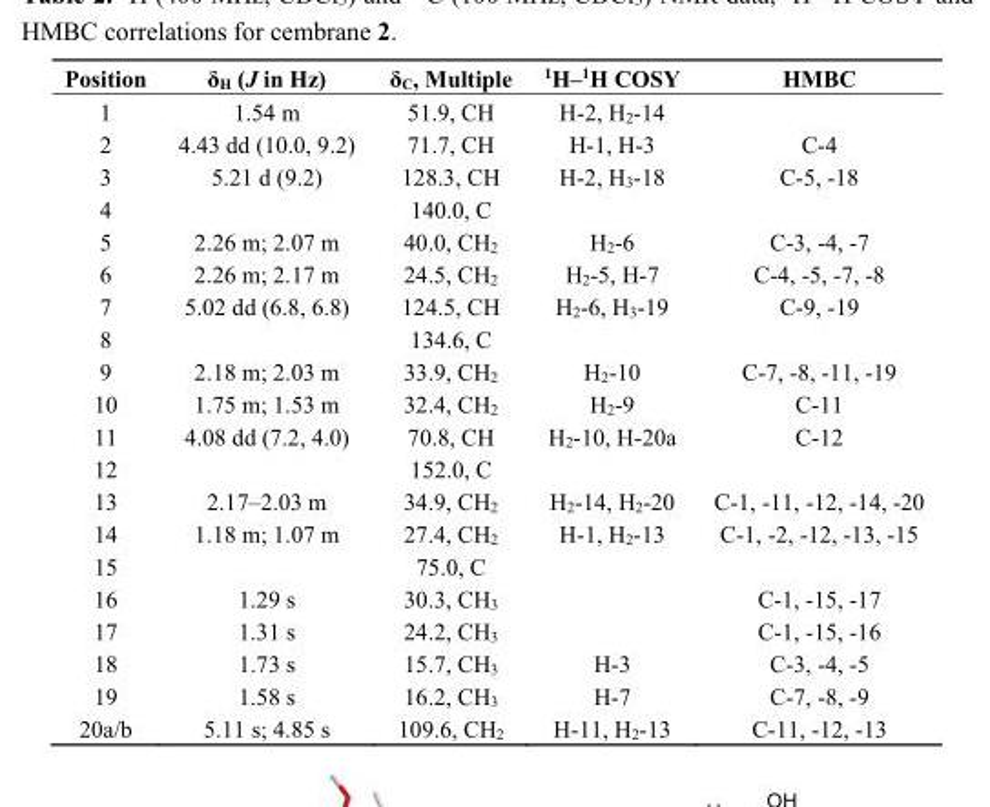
<table><thead><tr><td>Position</td><td>δ<sub>H</sub> (J in Hz)</td><td>δ<sub>C</sub>, Multiple</td><td><sup>1</sup>H–<sup>1</sup>H COSY</td><td>HMBC</td></tr></thead><tbody><tr><td>1</td><td>1.54 m</td><td>51.9, CH</td><td>H-2, H<sub>2</sub>-14</td><td></td></tr><tr><td>2</td><td>4.43 dd (10.0, 9.2)</td><td>71.7, CH</td><td>H-1, H-3</td><td>C-4</td></tr><tr><td>3</td><td>5.21 d (9.2)</td><td>128.3, CH</td><td>H-2, H<sub>3</sub>-18</td><td>C-5, -18</td></tr><tr><td>4</td><td></td><td>140.0, C</td><td></td><td></td></tr><tr><td>5</td><td>2.26 m; 2.07 m</td><td>40.0, CH<sub>2</sub></td><td>H<sub>2</sub>-6</td><td>C-3, -4, -7</td></tr><tr><td>6</td><td>2.26 m; 2.17 m</td><td>24.5, CH<sub>2</sub></td><td>H<sub>2</sub>-5, H-7</td><td>C-4, -5, -7, -8</td></tr><tr><td>7</td><td>5.02 dd (6.8, 6.8)</td><td>124.5, CH</td><td>H<sub>2</sub>-6, H<sub>3</sub>-19</td><td>C-9, -19</td></tr><tr><td>8</td><td></td><td>134.6, C</td><td></td><td></td></tr><tr><td>9</td><td>2.18 m; 2.03 m</td><td>33.9, CH<sub>2</sub></td><td>H<sub>2</sub>-10</td><td>C-7, -8, -11, -19</td></tr><tr><td>10</td><td>1.75 m; 1.53 m</td><td>32.4, CH<sub>2</sub></td><td>H<sub>2</sub>-9</td><td>C-11</td></tr><tr><td>11</td><td>4.08 dd (7.2, 4.0)</td><td>70.8, CH</td><td>H<sub>2</sub>-10, H-20a</td><td>C-12</td></tr><tr><td>12</td><td></td><td>152.0, C</td><td></td><td></td></tr><tr><td>13</td><td>2.17–2.03 m</td><td>34.9, CH<sub>2</sub></td><td>H<sub>2</sub>-14, H<sub>2</sub>-20</td><td>C-1, -11, -12, -14, -20</td></tr><tr><td>14</td><td>1.18 m; 1.07 m</td><td>27.4, CH<sub>2</sub></td><td>H-1, H<sub>2</sub>-13</td><td>C-1, -2, -12, -13, -15</td></tr><tr><td>15</td><td></td><td>75.0, C</td><td></td><td></td></tr><tr><td>16</td><td>1.29 s</td><td>30.3, CH<sub>3</sub></td><td></td><td>C-1, -15, -17</td></tr><tr><td>17</td><td>1.31 s</td><td>24.2, CH<sub>3</sub></td><td></td><td>C-1, -15, -16</td></tr><tr><td>18</td><td>1.73 s</td><td>15.7, CH<sub>3</sub></td><td>H-3</td><td>C-3, -4, -5</td></tr><tr><td>19</td><td>1.58 s</td><td>16.2, CH<sub>3</sub></td><td>H-7</td><td>C-7, -8, -9</td></tr><tr><td>20a/b</td><td>5.11 s; 4.85 s</td><td>109.6, CH<sub>2</sub></td><td>H-11, H<sub>2</sub>-13</td><td>C-11, -12, -13</td></tr></tbody></table>